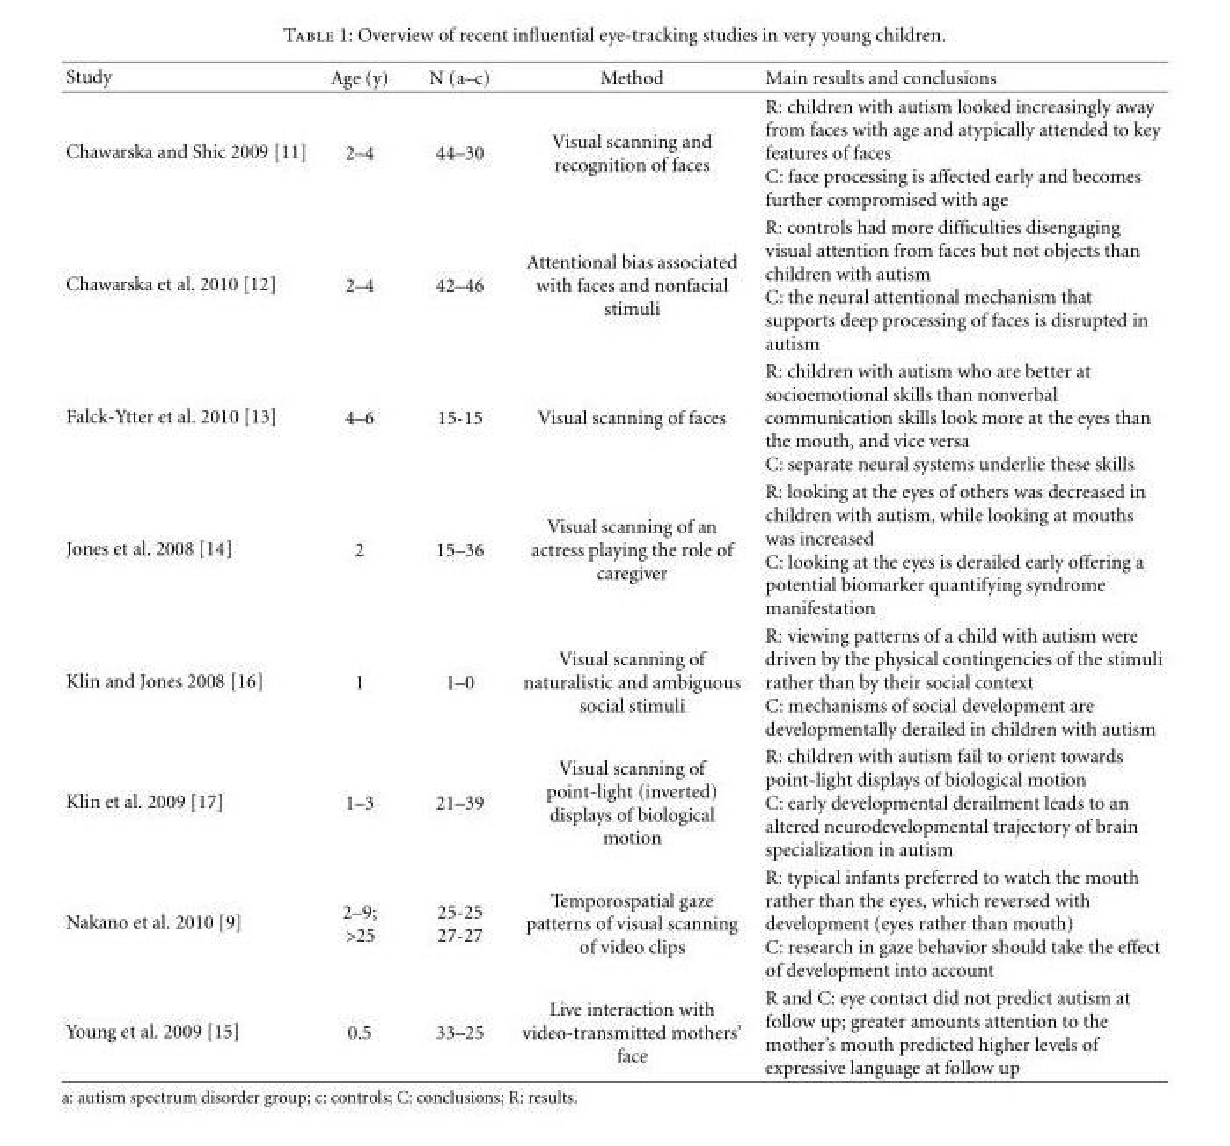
<table><thead><tr><td>Study</td><td>Age (y)</td><td>N (a–c)</td><td>Method</td><td>Main results and conclusions</td></tr></thead><tbody><tr><td>Chawarska and Shic 2009 [11]</td><td>2–4</td><td>44–30</td><td>Visual scanning and recognition of faces</td><td>R: children with autism looked increasingly away from faces with age and atypically attended to key features of faces C: face processing is affected early and becomes further compromised with age</td></tr><tr><td>Chawarska et al. 2010 [12]</td><td>2–4</td><td>42–46</td><td>Attentional bias associated with faces and nonfacial stimuli</td><td>R: controls had more difficulties disengaging visual attention from faces but not objects than children with autism C: the neural attentional mechanism that supports deep processing of faces is disrupted in autism</td></tr><tr><td>Falck-Ytter et al. 2010 [13]</td><td>4–6</td><td>15-15</td><td>Visual scanning of faces</td><td>R: children with autism who are better at socioemotional skills than nonverbal communication skills look more at the eyes than the mouth, and vice versa C: separate neural systems underlie these skills</td></tr><tr><td>Jones et al. 2008 [14]</td><td>2</td><td>15–36</td><td>Visual scanning of an actress playing the role of caregiver</td><td>R: looking at the eyes of others was decreased in children with autism, while looking at mouths was increased C: looking at the eyes is derailed early offering a potential biomarker quantifying syndrome manifestation</td></tr><tr><td>Klin and Jones 2008 [16]</td><td>1</td><td>1–0</td><td>Visual scanning of naturalistic and ambiguous social stimuli</td><td>R: viewing patterns of a child with autism were driven by the physical contingencies of the stimuli rather than by their social context C: mechanisms of social development are developmentally derailed in children with autism</td></tr><tr><td>Klin et al. 2009 [17]</td><td>1–3</td><td>21–39</td><td>Visual scanning of point-light (inverted) displays of biological motion</td><td>R: children with autism fail to orient towards point-light displays of biological motion C: early developmental derailment leads to an altered neurodevelopmental trajectory of brain specialization in autism</td></tr><tr><td>Nakano et al. 2010 [9]</td><td>2–9; &gt;25</td><td>25-25 27-27</td><td>Temporospatial gaze patterns of visual scanning of video clips</td><td>R: typical infants preferred to watch the mouth rather than the eyes, which reversed with development (eyes rather than mouth) C: research in gaze behavior should take the effect of development into account</td></tr><tr><td>Young et al. 2009 [15]</td><td>0.5</td><td>33–25</td><td>Live interaction with video-transmitted mothers’ face</td><td>R and C: eye contact did not predict autism at follow up; greater amounts attention to the mother’s mouth predicted higher levels of expressive language at follow up</td></tr></tbody></table>